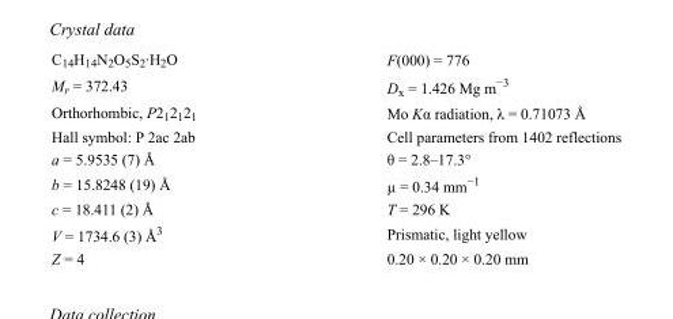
<table><tbody><tr><td>C<sub>14</sub>H<sub>14</sub>N<sub>2</sub>O<sub>5</sub>S<sub>2</sub>·H<sub>2</sub>O</td><td>F(000) = 776</td></tr><tr><td>M<sub>r</sub> = 372.43</td><td>D<sub>x</sub> = 1.426 Mg m<sup>−3</sup></td></tr><tr><td>Orthorhombic, P2<sub>1</sub>2<sub>1</sub>2<sub>1</sub></td><td>Mo Kα radiation, λ = 0.71073 Å</td></tr><tr><td>Hall symbol: P 2ac 2ab</td><td>Cell parameters from 1402 reflections</td></tr><tr><td>a = 5.9535 (7) Å</td><td>θ = 2.8–17.3°</td></tr><tr><td>b = 15.8248 (19) Å</td><td>µ = 0.34 mm<sup>−1</sup></td></tr><tr><td>c = 18.411 (2) Å</td><td>T = 296 K</td></tr><tr><td>V = 1734.6 (3) Å<sup>3</sup></td><td>Prismatic, light yellow</td></tr><tr><td>Z = 4</td><td>0.20 × 0.20 × 0.20 mm</td></tr></tbody></table>